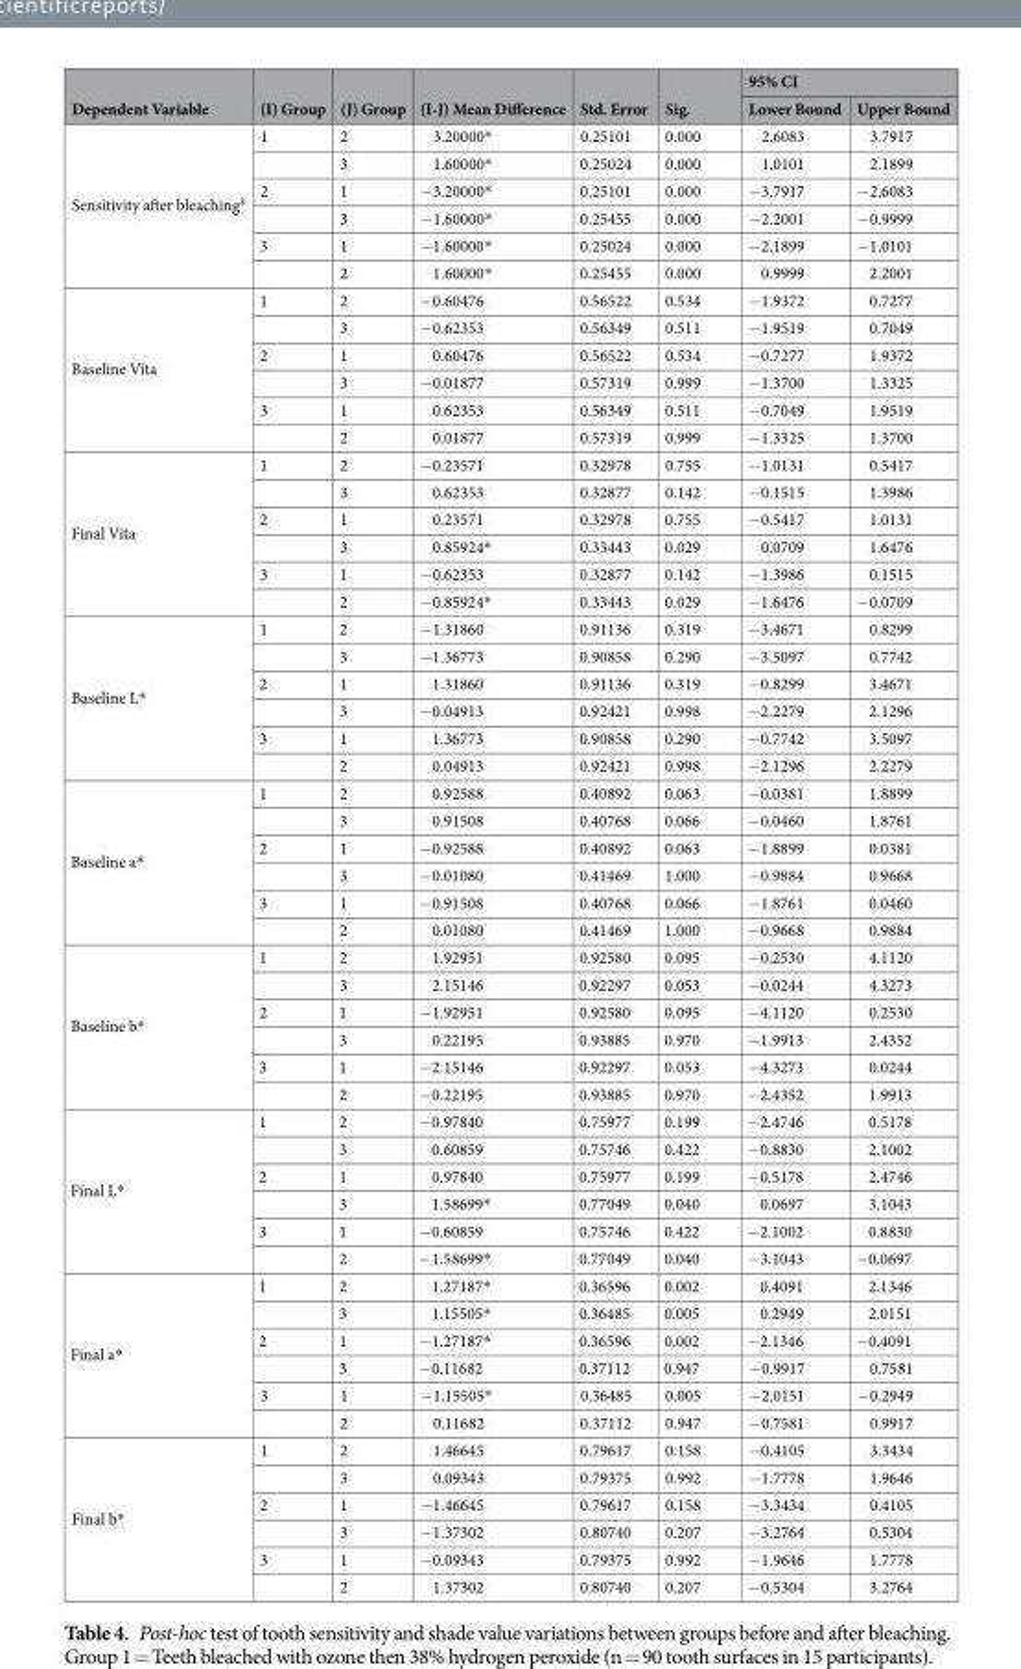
<table><thead><tr><td rowspan="2">Dependent Variable</td><td rowspan="2">(I) Group</td><td rowspan="2">(J) Group</td><td rowspan="2">(I-J) Mean Difference</td><td rowspan="2">Std. Error</td><td rowspan="2">Sig.</td><td colspan="2">95% CI</td></tr><tr><td>Lower Bound</td><td>Upper Bound</td></tr></thead><tbody><tr><td rowspan="6">Sensitivity after bleaching<sup>$</sup></td><td>1</td><td>2</td><td>3.20000*</td><td>0.25101</td><td>0.000</td><td>2.6083</td><td>3.7917</td></tr><tr><td></td><td>3</td><td>1.60000*</td><td>0.25024</td><td>0.000</td><td>1.0101</td><td>2.1899</td></tr><tr><td>2</td><td>1</td><td>−3.20000*</td><td>0.25101</td><td>0.000</td><td>−3.7917</td><td>−2.6083</td></tr><tr><td></td><td>3</td><td>−1.60000*</td><td>0.25455</td><td>0.000</td><td>−2.2001</td><td>−0.9999</td></tr><tr><td>3</td><td>1</td><td>−1.60000*</td><td>0.25024</td><td>0.000</td><td>−2.1899</td><td>−1.0101</td></tr><tr><td></td><td>2</td><td>1.60000*</td><td>0.25455</td><td>0.000</td><td>0.9999</td><td>2.2001</td></tr><tr><td rowspan="6">Baseline Vita</td><td>1</td><td>2</td><td>−0.60476</td><td>0.56522</td><td>0.534</td><td>−1.9372</td><td>0.7277</td></tr><tr><td></td><td>3</td><td>−0.62353</td><td>0.56349</td><td>0.511</td><td>−1.9519</td><td>0.7049</td></tr><tr><td>2</td><td>1</td><td>0.60476</td><td>0.56522</td><td>0.534</td><td>−0.7277</td><td>1.9372</td></tr><tr><td></td><td>3</td><td>−0.01877</td><td>0.57319</td><td>0.999</td><td>−1.3700</td><td>1.3325</td></tr><tr><td>3</td><td>1</td><td>0.62353</td><td>0.56349</td><td>0.511</td><td>−0.7049</td><td>1.9519</td></tr><tr><td></td><td>2</td><td>0.01877</td><td>0.57319</td><td>0.999</td><td>−1.3325</td><td>1.3700</td></tr><tr><td rowspan="6">Final Vita</td><td>1</td><td>2</td><td>−0.23571</td><td>0.32978</td><td>0.755</td><td>−1.0131</td><td>0.5417</td></tr><tr><td></td><td>3</td><td>0.62353</td><td>0.32877</td><td>0.142</td><td>−0.1515</td><td>1.3986</td></tr><tr><td>2</td><td>1</td><td>0.23571</td><td>0.32978</td><td>0.755</td><td>−0.5417</td><td>1.0131</td></tr><tr><td></td><td>3</td><td>0.85924*</td><td>0.33443</td><td>0.029</td><td>0.0709</td><td>1.6476</td></tr><tr><td>3</td><td>1</td><td>−0.62353</td><td>0.32877</td><td>0.142</td><td>−1.3986</td><td>0.1515</td></tr><tr><td></td><td>2</td><td>−0.85924*</td><td>0.33443</td><td>0.029</td><td>−1.6476</td><td>−0.0709</td></tr><tr><td rowspan="6">Baseline L*</td><td>1</td><td>2</td><td>−1.31860</td><td>0.91136</td><td>0.319</td><td>−3.4671</td><td>0.8299</td></tr><tr><td></td><td>3</td><td>−1.36773</td><td>0.90858</td><td>0.290</td><td>−3.5097</td><td>0.7742</td></tr><tr><td>2</td><td>1</td><td>1.31860</td><td>0.91136</td><td>0.319</td><td>−0.8299</td><td>3.4671</td></tr><tr><td></td><td>3</td><td>−0.04913</td><td>0.92421</td><td>0.998</td><td>−2.2279</td><td>2.1296</td></tr><tr><td>3</td><td>1</td><td>1.36773</td><td>0.90858</td><td>0.290</td><td>−0.7742</td><td>3.5097</td></tr><tr><td></td><td>2</td><td>0.04913</td><td>0.92421</td><td>0.998</td><td>−2.1296</td><td>2.2279</td></tr><tr><td rowspan="6">Baseline a*</td><td>1</td><td>2</td><td>0.92588</td><td>0.40892</td><td>0.063</td><td>−0.0381</td><td>1.8899</td></tr><tr><td></td><td>3</td><td>0.91508</td><td>0.40768</td><td>0.066</td><td>−0.0460</td><td>1.8761</td></tr><tr><td>2</td><td>1</td><td>−0.92588</td><td>0.40892</td><td>0.063</td><td>−1.8899</td><td>0.0381</td></tr><tr><td></td><td>3</td><td>−0.01080</td><td>0.41469</td><td>1.000</td><td>−0.9884</td><td>0.9668</td></tr><tr><td>3</td><td>1</td><td>−0.91508</td><td>0.40768</td><td>0.066</td><td>−1.8761</td><td>0.0460</td></tr><tr><td></td><td>2</td><td>0.01080</td><td>0.41469</td><td>1.000</td><td>−0.9668</td><td>0.9884</td></tr><tr><td rowspan="6">Baseline b*</td><td>1</td><td>2</td><td>1.92951</td><td>0.92580</td><td>0.095</td><td>−0.2530</td><td>4.1120</td></tr><tr><td></td><td>3</td><td>2.15146</td><td>0.92297</td><td>0.053</td><td>−0.0244</td><td>4.3273</td></tr><tr><td>2</td><td>1</td><td>−1.92951</td><td>0.92580</td><td>0.095</td><td>−4.1120</td><td>0.2530</td></tr><tr><td></td><td>3</td><td>0.22195</td><td>0.93885</td><td>0.970</td><td>−1.9913</td><td>2.4352</td></tr><tr><td>3</td><td>1</td><td>−2.15146</td><td>0.92297</td><td>0.053</td><td>−4.3273</td><td>0.0244</td></tr><tr><td></td><td>2</td><td>−0.22195</td><td>0.93885</td><td>0.970</td><td>−2.4352</td><td>1.9913</td></tr><tr><td rowspan="6">Final L*</td><td>1</td><td>2</td><td>−0.97840</td><td>0.75977</td><td>0.199</td><td>−2.4746</td><td>0.5178</td></tr><tr><td></td><td>3</td><td>0.60859</td><td>0.75746</td><td>0.422</td><td>−0.8830</td><td>2.1002</td></tr><tr><td>2</td><td>1</td><td>0.97840</td><td>0.75977</td><td>0.199</td><td>−0.5178</td><td>2.4746</td></tr><tr><td></td><td>3</td><td>1.58699*</td><td>0.77049</td><td>0.040</td><td>0.0697</td><td>3.1043</td></tr><tr><td>3</td><td>1</td><td>−0.60859</td><td>0.75746</td><td>0.422</td><td>−2.1002</td><td>0.8830</td></tr><tr><td></td><td>2</td><td>−1.58699*</td><td>0.77049</td><td>0.040</td><td>−3.1043</td><td>−0.0697</td></tr><tr><td rowspan="6">Final a*</td><td>1</td><td>2</td><td>1.27187*</td><td>0.36596</td><td>0.002</td><td>0.4091</td><td>2.1346</td></tr><tr><td></td><td>3</td><td>1.15505*</td><td>0.36485</td><td>0.005</td><td>0.2949</td><td>2.0151</td></tr><tr><td>2</td><td>1</td><td>−1.27187*</td><td>0.36596</td><td>0.002</td><td>−2.1346</td><td>−0.4091</td></tr><tr><td></td><td>3</td><td>−0.11682</td><td>0.37112</td><td>0.947</td><td>−0.9917</td><td>0.7581</td></tr><tr><td>3</td><td>1</td><td>−1.15505*</td><td>0.36485</td><td>0.005</td><td>−2.0151</td><td>−0.2949</td></tr><tr><td></td><td>2</td><td>0.11682</td><td>0.37112</td><td>0.947</td><td>−0.7581</td><td>0.9917</td></tr><tr><td rowspan="6">Final b*</td><td>1</td><td>2</td><td>1.46645</td><td>0.79617</td><td>0.158</td><td>−0.4105</td><td>3.3434</td></tr><tr><td></td><td>3</td><td>0.09343</td><td>0.79375</td><td>0.992</td><td>−1.7778</td><td>1.9646</td></tr><tr><td>2</td><td>1</td><td>−1.46645</td><td>0.79617</td><td>0.158</td><td>−3.3434</td><td>0.4105</td></tr><tr><td></td><td>3</td><td>−1.37302</td><td>0.80740</td><td>0.207</td><td>−3.2764</td><td>0.5304</td></tr><tr><td>3</td><td>1</td><td>−0.09343</td><td>0.79375</td><td>0.992</td><td>−1.9646</td><td>1.7778</td></tr><tr><td></td><td>2</td><td>1.37302</td><td>0.80740</td><td>0.207</td><td>−0.5304</td><td>3.2764</td></tr></tbody></table>